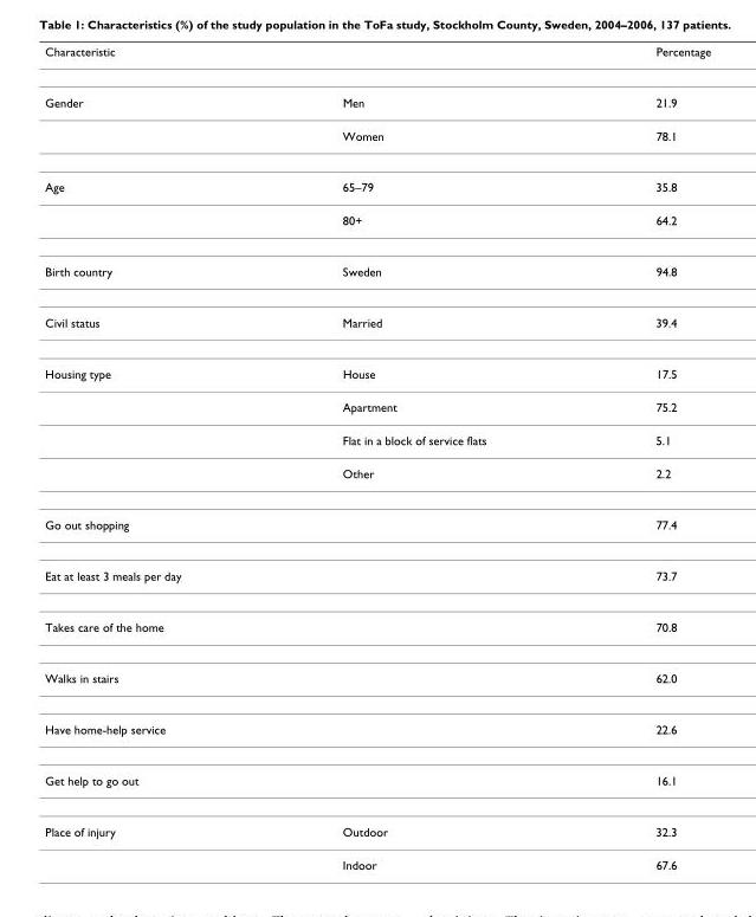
<table><thead><tr><td>Characteristic</td><td></td><td>Percentage</td></tr></thead><tbody><tr><td rowspan="2">Gender</td><td>Men</td><td>21.9</td></tr><tr><td>Women</td><td>78.1</td></tr><tr><td rowspan="2">Age</td><td>65–79</td><td>35.8</td></tr><tr><td>80+</td><td>64.2</td></tr><tr><td>Birth country</td><td>Sweden</td><td>94.8</td></tr><tr><td>Civil status</td><td>Married</td><td>39.4</td></tr><tr><td rowspan="4">Housing type</td><td>House</td><td>17.5</td></tr><tr><td>Apartment</td><td>75.2</td></tr><tr><td>Flat in a block of service flats</td><td>5.1</td></tr><tr><td>Other</td><td>2.2</td></tr><tr><td>Go out shopping</td><td></td><td>77.4</td></tr><tr><td>Eat at least 3 meals per day</td><td></td><td>73.7</td></tr><tr><td>Takes care of the home</td><td></td><td>70.8</td></tr><tr><td>Walks in stairs</td><td></td><td>62.0</td></tr><tr><td>Have home-help service</td><td></td><td>22.6</td></tr><tr><td>Get help to go out</td><td></td><td>16.1</td></tr><tr><td rowspan="2">Place of injury</td><td>Outdoor</td><td>32.3</td></tr><tr><td>Indoor</td><td>67.6</td></tr></tbody></table>